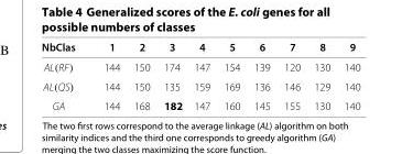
<table><thead><tr><td>NbClas</td><td>1</td><td>2</td><td>3</td><td>4</td><td>5</td><td>6</td><td>7</td><td>8</td><td>9</td></tr></thead><tbody><tr><td>AL(RF)</td><td>144</td><td>150</td><td>174</td><td>147</td><td>154</td><td>139</td><td>120</td><td>130</td><td>140</td></tr><tr><td>AL(QS)</td><td>144</td><td>150</td><td>135</td><td>159</td><td>169</td><td>136</td><td>146</td><td>129</td><td>140</td></tr><tr><td>GA</td><td>144</td><td>168</td><td>182</td><td>147</td><td>160</td><td>145</td><td>155</td><td>130</td><td>140</td></tr></tbody></table>